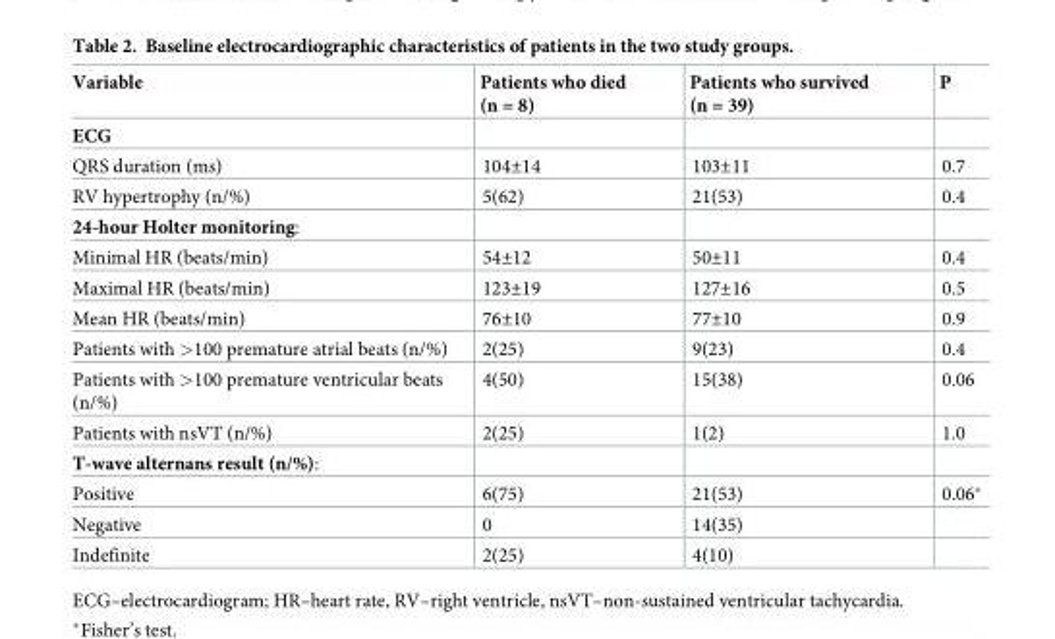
<table><thead><tr><td>Variable</td><td>Patients who died (n = 8)</td><td>Patients who survived (n = 39)</td><td>P</td></tr></thead><tbody><tr><td colspan="4">ECG</td></tr><tr><td>QRS duration (ms)</td><td>104±14</td><td>103±11</td><td>0.7</td></tr><tr><td>RV hypertrophy (n/%)</td><td>5(62)</td><td>21(53)</td><td>0.4</td></tr><tr><td colspan="4">24-hour Holter monitoring:</td></tr><tr><td>Minimal HR (beats/min)</td><td>54±12</td><td>50±11</td><td>0.4</td></tr><tr><td>Maximal HR (beats/min)</td><td>123±19</td><td>127±16</td><td>0.5</td></tr><tr><td>Mean HR (beats/min)</td><td>76±10</td><td>77±10</td><td>0.9</td></tr><tr><td>Patients with &gt;100 premature atrial beats (n/%)</td><td>2(25)</td><td>9(23)</td><td>0.4</td></tr><tr><td>Patients with &gt;100 premature ventricular beats (n/%)</td><td>4(50)</td><td>15(38)</td><td>0.06</td></tr><tr><td>Patients with nsVT (n/%)</td><td>2(25)</td><td>1(2)</td><td>1.0</td></tr><tr><td colspan="4">T-wave alternans result (n/%):</td></tr><tr><td>Positive</td><td>6(75)</td><td>21(53)</td><td>0.06*</td></tr><tr><td>Negative</td><td>0</td><td>14(35)</td><td></td></tr><tr><td>Indefinite</td><td>2(25)</td><td>4(10)</td><td></td></tr></tbody></table>